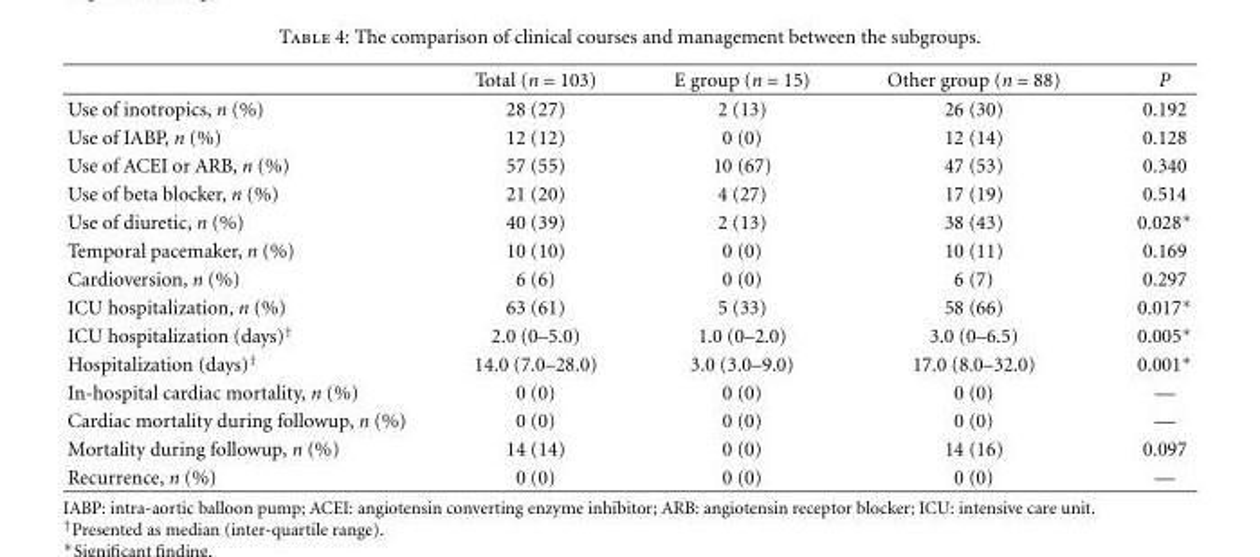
<table><thead><tr><td></td><td>Total (n = 103)</td><td>E group (n = 15)</td><td>Other group (n = 88)</td><td>P</td></tr></thead><tbody><tr><td>Use of inotropics, n (%)</td><td>28 (27)</td><td>2 (13)</td><td>26 (30)</td><td>0.192</td></tr><tr><td>Use of IABP, n (%)</td><td>12 (12)</td><td>0 (0)</td><td>12 (14)</td><td>0.128</td></tr><tr><td>Use of ACEI or ARB, n (%)</td><td>57 (55)</td><td>10 (67)</td><td>47 (53)</td><td>0.340</td></tr><tr><td>Use of beta blocker, n (%)</td><td>21 (20)</td><td>4 (27)</td><td>17 (19)</td><td>0.514</td></tr><tr><td>Use of diuretic, n (%)</td><td>40 (39)</td><td>2 (13)</td><td>38 (43)</td><td>0.028∗</td></tr><tr><td>Temporal pacemaker, n (%)</td><td>10 (10)</td><td>0 (0)</td><td>10 (11)</td><td>0.169</td></tr><tr><td>Cardioversion, n (%)</td><td>6 (6)</td><td>0 (0)</td><td>6 (7)</td><td>0.297</td></tr><tr><td>ICU hospitalization, n (%)</td><td>63 (61)</td><td>5 (33)</td><td>58 (66)</td><td>0.017∗</td></tr><tr><td>ICU hospitalization (days)<sup>†</sup></td><td>2.0 (0–5.0)</td><td>1.0 (0–2.0)</td><td>3.0 (0–6.5)</td><td>0.005∗</td></tr><tr><td>Hospitalization (days)<sup>†</sup></td><td>14.0 (7.0–28.0)</td><td>3.0 (3.0–9.0)</td><td>17.0 (8.0–32.0)</td><td>0.001∗</td></tr><tr><td>In-hospital cardiac mortality, n (%)</td><td>0 (0)</td><td>0 (0)</td><td>0 (0)</td><td>—</td></tr><tr><td>Cardiac mortality during followup, n (%)</td><td>0 (0)</td><td>0 (0)</td><td>0 (0)</td><td>—</td></tr><tr><td>Mortality during followup, n (%)</td><td>14 (14)</td><td>0 (0)</td><td>14 (16)</td><td>0.097</td></tr><tr><td>Recurrence, n (%)</td><td>0 (0)</td><td>0 (0)</td><td>0 (0)</td><td>—</td></tr></tbody></table>